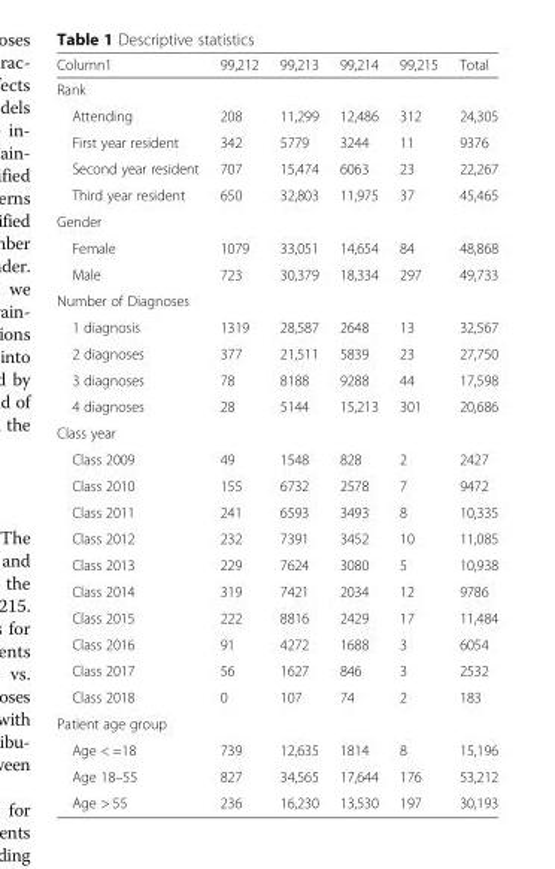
<table><thead><tr><td>Column1</td><td>99,212</td><td>99,213</td><td>99,214</td><td>99,215</td><td>Total</td></tr></thead><tbody><tr><td colspan="6">Rank</td></tr><tr><td>Attending</td><td>208</td><td>11,299</td><td>12,486</td><td>312</td><td>24,305</td></tr><tr><td>First year resident</td><td>342</td><td>5779</td><td>3244</td><td>11</td><td>9376</td></tr><tr><td>Second year resident</td><td>707</td><td>15,474</td><td>6063</td><td>23</td><td>22,267</td></tr><tr><td>Third year resident</td><td>650</td><td>32,803</td><td>11,975</td><td>37</td><td>45,465</td></tr><tr><td colspan="6">Gender</td></tr><tr><td>Female</td><td>1079</td><td>33,051</td><td>14,654</td><td>84</td><td>48,868</td></tr><tr><td>Male</td><td>723</td><td>30,379</td><td>18,334</td><td>297</td><td>49,733</td></tr><tr><td colspan="6">Number of Diagnoses</td></tr><tr><td>1 diagnosis</td><td>1319</td><td>28,587</td><td>2648</td><td>13</td><td>32,567</td></tr><tr><td>2 diagnoses</td><td>377</td><td>21,511</td><td>5839</td><td>23</td><td>27,750</td></tr><tr><td>3 diagnoses</td><td>78</td><td>8188</td><td>9288</td><td>44</td><td>17,598</td></tr><tr><td>4 diagnoses</td><td>28</td><td>5144</td><td>15,213</td><td>301</td><td>20,686</td></tr><tr><td colspan="6">Class year</td></tr><tr><td>Class 2009</td><td>49</td><td>1548</td><td>828</td><td>2</td><td>2427</td></tr><tr><td>Class 2010</td><td>155</td><td>6732</td><td>2578</td><td>7</td><td>9472</td></tr><tr><td>Class 2011</td><td>241</td><td>6593</td><td>3493</td><td>8</td><td>10,335</td></tr><tr><td>Class 2012</td><td>232</td><td>7391</td><td>3452</td><td>10</td><td>11,085</td></tr><tr><td>Class 2013</td><td>229</td><td>7624</td><td>3080</td><td>5</td><td>10,938</td></tr><tr><td>Class 2014</td><td>319</td><td>7421</td><td>2034</td><td>12</td><td>9786</td></tr><tr><td>Class 2015</td><td>222</td><td>8816</td><td>2429</td><td>17</td><td>11,484</td></tr><tr><td>Class 2016</td><td>91</td><td>4272</td><td>1688</td><td>3</td><td>6054</td></tr><tr><td>Class 2017</td><td>56</td><td>1627</td><td>846</td><td>3</td><td>2532</td></tr><tr><td>Class 2018</td><td>0</td><td>107</td><td>74</td><td>2</td><td>183</td></tr><tr><td colspan="6">Patient age group</td></tr><tr><td>Age &lt; =18</td><td>739</td><td>12,635</td><td>1814</td><td>8</td><td>15,196</td></tr><tr><td>Age 18–55</td><td>827</td><td>34,565</td><td>17,644</td><td>176</td><td>53,212</td></tr><tr><td>Age &gt; 55</td><td>236</td><td>16,230</td><td>13,530</td><td>197</td><td>30,193</td></tr></tbody></table>